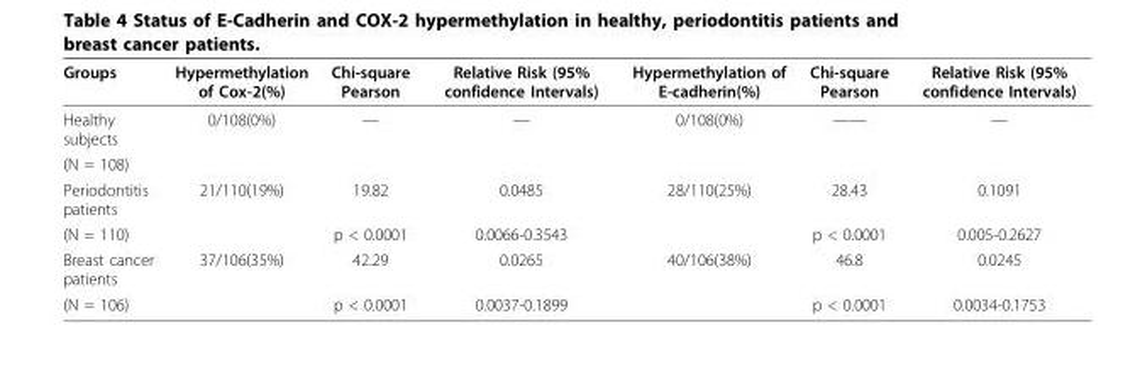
<table><thead><tr><td>Groups</td><td>Hypermethylation of Cox-2(%)</td><td>Chi-square Pearson</td><td>Relative Risk (95% confidence Intervals)</td><td>Hypermethylation of E-cadherin(%)</td><td>Chi-square Pearson</td><td>Relative Risk (95% confidence Intervals)</td></tr></thead><tbody><tr><td>Healthy subjects</td><td>0/108(0%)</td><td>—</td><td>—</td><td>0/108(0%)</td><td>——</td><td>—</td></tr><tr><td colspan="7">(N = 108)</td></tr><tr><td>Periodontitis patients</td><td>21/110(19%)</td><td>19.82</td><td>0.0485</td><td>28/110(25%)</td><td>28.43</td><td>0.1091</td></tr><tr><td>(N = 110)</td><td></td><td>p &lt; 0.0001</td><td>0.0066-0.3543</td><td></td><td>p &lt; 0.0001</td><td>0.005-0.2627</td></tr><tr><td>Breast cancer patients</td><td>37/106(35%)</td><td>42.29</td><td>0.0265</td><td>40/106(38%)</td><td>46.8</td><td>0.0245</td></tr><tr><td>(N = 106)</td><td></td><td>p &lt; 0.0001</td><td>0.0037-0.1899</td><td></td><td>p &lt; 0.0001</td><td>0.0034-0.1753</td></tr></tbody></table>